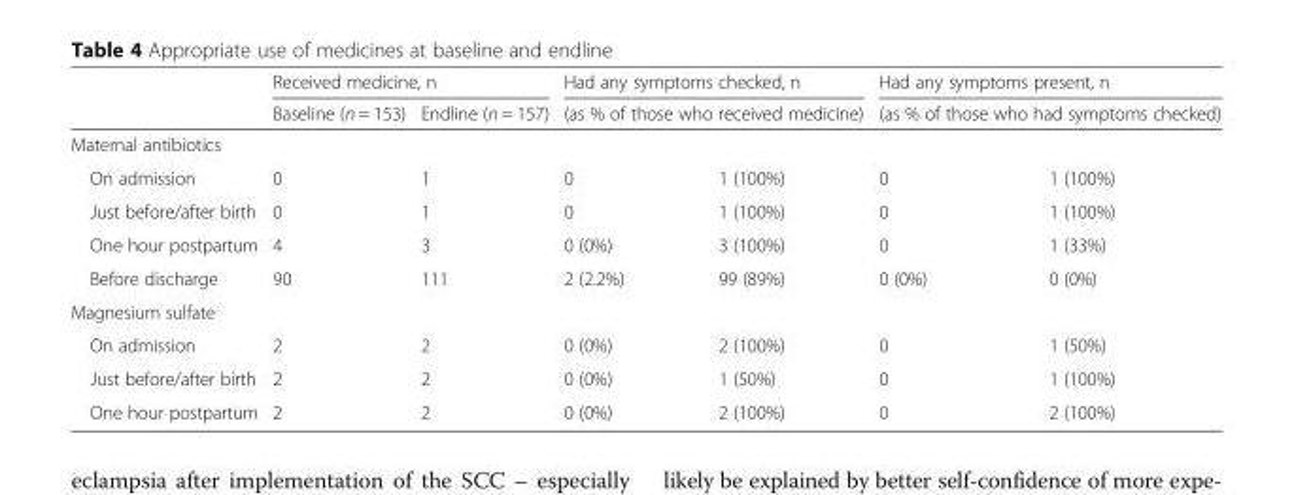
<table><thead><tr><td rowspan="2"></td><td colspan="2">Received medicine, n</td><td rowspan="2" colspan="2">Had any symptoms checked, n (as % of those who received medicine)</td><td rowspan="2" colspan="2">Had any symptoms present, n (as % of those who had symptoms checked)</td></tr><tr><td>Baseline (n = 153)</td><td>Endline (n = 157)</td></tr><tr><td colspan="7">Maternal antibiotics</td></tr><tr><td>On admission</td><td>0</td><td>1</td><td>0</td><td>1 (100%)</td><td>0</td><td>1 (100%)</td></tr></thead><tbody><tr><td>Just before/after birth</td><td>0</td><td>1</td><td>0</td><td>1 (100%)</td><td>0</td><td>1 (100%)</td></tr><tr><td>One hour postpartum</td><td>4</td><td>3</td><td>0 (0%)</td><td>3 (100%)</td><td>0</td><td>1 (33%)</td></tr><tr><td>Before discharge</td><td>90</td><td>111</td><td>2 (2.2%)</td><td>99 (89%)</td><td>0 (0%)</td><td>0 (0%)</td></tr><tr><td colspan="7">Magnesium sulfate</td></tr><tr><td>On admission</td><td>2</td><td>2</td><td>0 (0%)</td><td>2 (100%)</td><td>0</td><td>1 (50%)</td></tr><tr><td>Just before/after birth</td><td>2</td><td>2</td><td>0 (0%)</td><td>1 (50%)</td><td>0</td><td>1 (100%)</td></tr><tr><td>One hour postpartum</td><td>2</td><td>2</td><td>0 (0%)</td><td>2 (100%)</td><td>0</td><td>2 (100%)</td></tr></tbody></table>